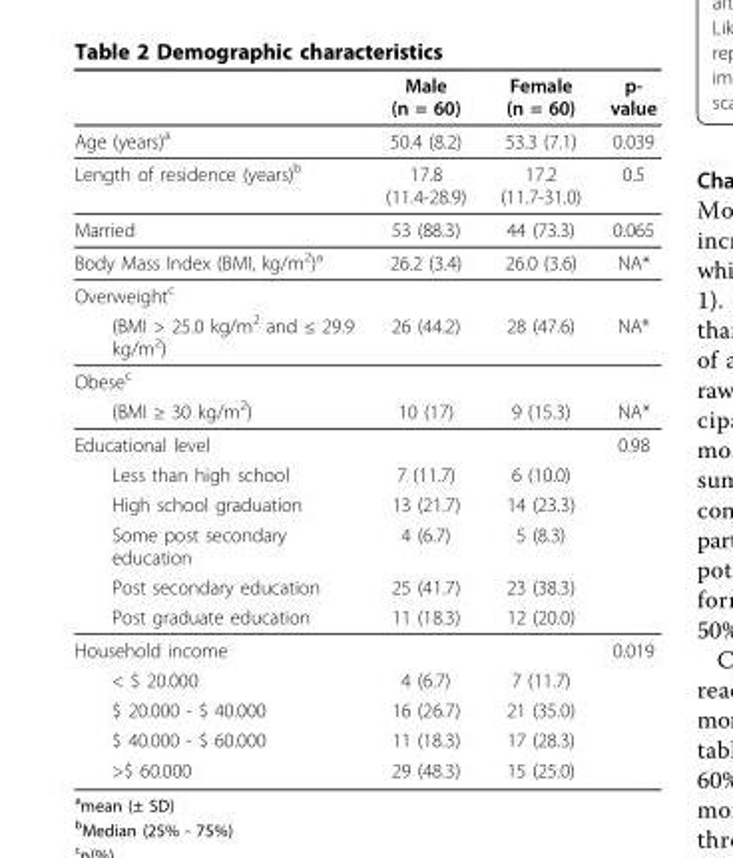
<table><thead><tr><td></td><td>Male (n = 60)</td><td>Female (n = 60)</td><td>p- value</td></tr></thead><tbody><tr><td>Age (years)<sup>a</sup></td><td>50.4 (8.2)</td><td>53.3 (7.1)</td><td>0.039</td></tr><tr><td>Length of residence (years)<sup>b</sup></td><td>17.8 (11.4-28.9)</td><td>17.2 (11.7-31.0)</td><td>0.5</td></tr><tr><td>Married</td><td>53 (88.3)</td><td>44 (73.3)</td><td>0.065</td></tr><tr><td>Body Mass Index (BMI, kg/m<sup>2</sup>)<sup>a</sup></td><td>26.2 (3.4)</td><td>26.0 (3.6)</td><td>NA*</td></tr><tr><td colspan="4">Overweight<sup>c</sup></td></tr><tr><td>(BMI &gt; 25.0 kg/m<sup>2</sup> and ≤ 29.9 kg/m<sup>2</sup>)</td><td>26 (44.2)</td><td>28 (47.6)</td><td>NA*</td></tr><tr><td colspan="4">Obese<sup>c</sup></td></tr><tr><td>(BMI ≥ 30 kg/m<sup>2</sup>)</td><td>10 (17)</td><td>9 (15.3)</td><td>NA*</td></tr><tr><td>Educational level</td><td></td><td></td><td>0.98</td></tr><tr><td>Less than high school</td><td>7 (11.7)</td><td>6 (10.0)</td><td></td></tr><tr><td>High school graduation</td><td>13 (21.7)</td><td>14 (23.3)</td><td></td></tr><tr><td>Some post secondary education</td><td>4 (6.7)</td><td>5 (8.3)</td><td></td></tr><tr><td>Post secondary education</td><td>25 (41.7)</td><td>23 (38.3)</td><td></td></tr><tr><td>Post graduate education</td><td>11 (18.3)</td><td>12 (20.0)</td><td></td></tr><tr><td>Household income</td><td></td><td></td><td>0.019</td></tr><tr><td>&lt; $ 20.000</td><td>4 (6.7)</td><td>7 (11.7)</td><td></td></tr><tr><td>$ 20.000 - $ 40.000</td><td>16 (26.7)</td><td>21 (35.0)</td><td></td></tr><tr><td>$ 40.000 - $ 60.000</td><td>11 (18.3)</td><td>17 (28.3)</td><td></td></tr><tr><td>&gt;$ 60.000</td><td>29 (48.3)</td><td>15 (25.0)</td><td></td></tr></tbody></table>